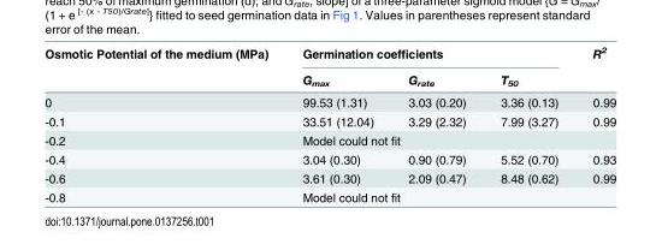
<table><thead><tr><td rowspan="2">Osmotic Potential of the medium (MPa)</td><td colspan="3">Germination coefficients</td><td rowspan="2">R<sup>2</sup></td></tr><tr><td>G<sub>max</sub></td><td>G<sub>rate</sub></td><td>T<sub>50</sub></td></tr></thead><tbody><tr><td>0</td><td>99.53 (1.31)</td><td>3.03 (0.20)</td><td>3.36 (0.13)</td><td>0.99</td></tr><tr><td>-0.1</td><td>33.51 (12.04)</td><td>3.29 (2.32)</td><td>7.99 (3.27)</td><td>0.99</td></tr><tr><td>-0.2</td><td colspan="4">Model could not fit</td></tr><tr><td>-0.4</td><td>3.04 (0.30)</td><td>0.90 (0.79)</td><td>5.52 (0.70)</td><td>0.93</td></tr><tr><td>-0.6</td><td>3.61 (0.30)</td><td>2.09 (0.47)</td><td>8.48 (0.62)</td><td>0.99</td></tr><tr><td>-0.8</td><td colspan="4">Model could not fit</td></tr></tbody></table>